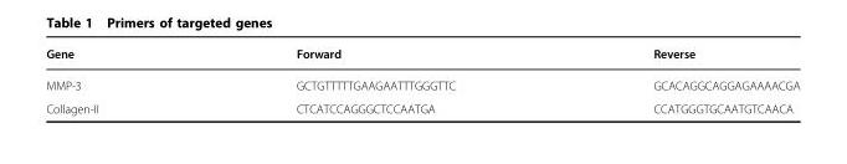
<table><thead><tr><td>Gene</td><td>Forward</td><td>Reverse</td></tr></thead><tbody><tr><td>MMP-3</td><td>GCTGTTTTTGAAGAATTTGGGTTC</td><td>GCACAGGCAGGAGAAAACGA</td></tr><tr><td>Collagen-II</td><td>CTCATCCAGGGCTCCAATGA</td><td>CCATGGGTGCAATGTCAACA</td></tr></tbody></table>